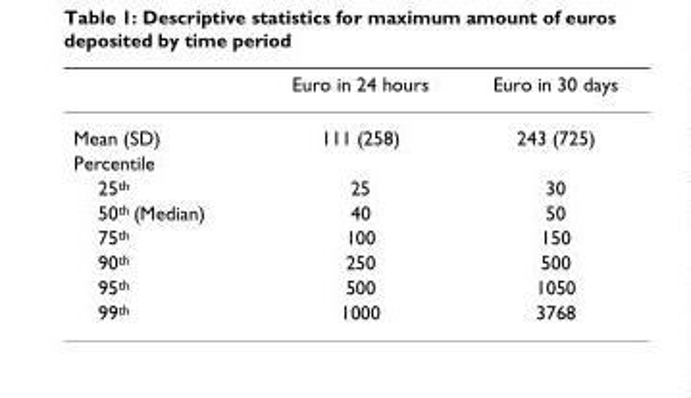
<table><thead><tr><td></td><td>Euro in 24 hours</td><td>Euro in 30 days</td></tr></thead><tbody><tr><td>Mean (SD)</td><td>111 (258)</td><td>243 (725)</td></tr><tr><td colspan="3">Percentile</td></tr><tr><td>25<sup>th</sup></td><td>25</td><td>30</td></tr><tr><td>50<sup>th</sup> (Median)</td><td>40</td><td>50</td></tr><tr><td>75<sup>th</sup></td><td>100</td><td>150</td></tr><tr><td>90<sup>th</sup></td><td>250</td><td>500</td></tr><tr><td>95<sup>th</sup></td><td>500</td><td>1050</td></tr><tr><td>99<sup>th</sup></td><td>1000</td><td>3768</td></tr></tbody></table>